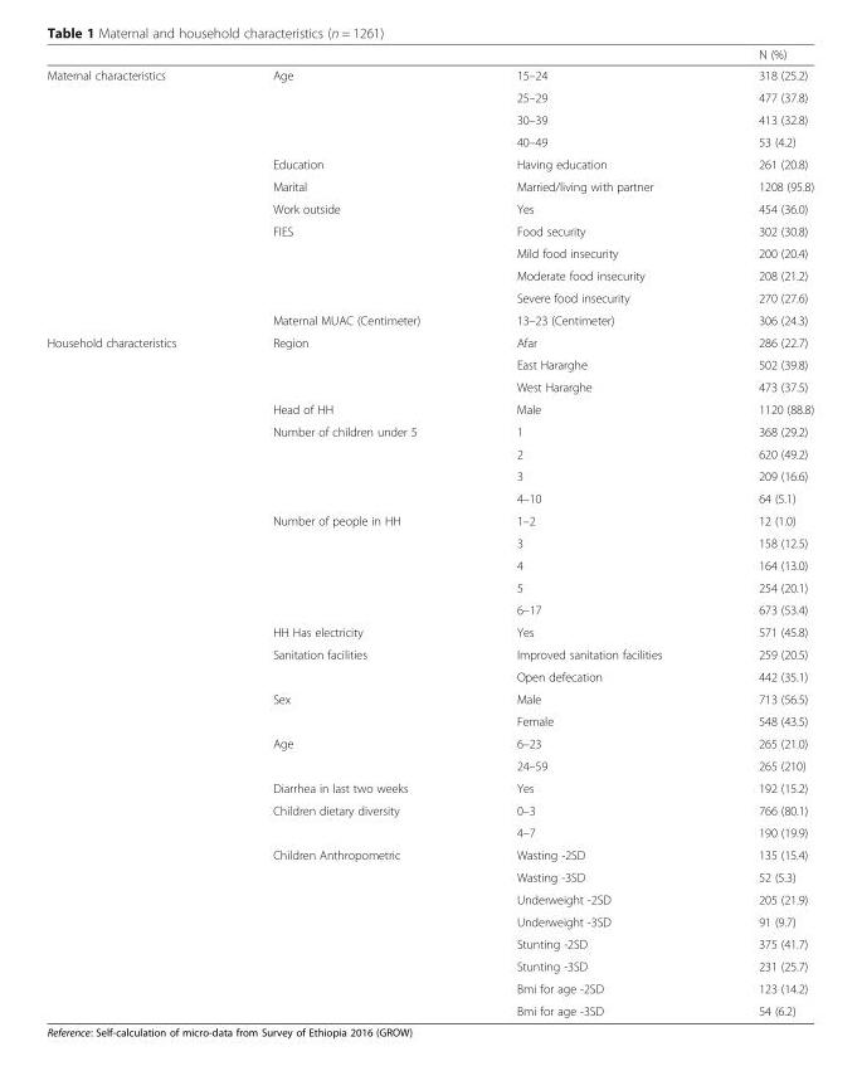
<table><thead><tr><td></td><td></td><td></td><td>N (%)</td></tr></thead><tbody><tr><td rowspan="12">Maternal characteristics</td><td>Age</td><td>15–24</td><td>318 (25.2)</td></tr><tr><td></td><td>25–29</td><td>477 (37.8)</td></tr><tr><td></td><td>30–39</td><td>413 (32.8)</td></tr><tr><td></td><td>40–49</td><td>53 (4.2)</td></tr><tr><td>Education</td><td>Having education</td><td>261 (20.8)</td></tr><tr><td>Marital</td><td>Married/living with partner</td><td>1208 (95.8)</td></tr><tr><td>Work outside</td><td>Yes</td><td>454 (36.0)</td></tr><tr><td>FIES</td><td>Food security</td><td>302 (30.8)</td></tr><tr><td></td><td>Mild food insecurity</td><td>200 (20.4)</td></tr><tr><td></td><td>Moderate food insecurity</td><td>208 (21.2)</td></tr><tr><td></td><td>Severe food insecurity</td><td>270 (27.6)</td></tr><tr><td>Maternal MUAC (Centimeter)</td><td>13–23 (Centimeter)</td><td>306 (24.3)</td></tr><tr><td rowspan="31">Household characteristics</td><td>Region</td><td>Afar</td><td>286 (22.7)</td></tr><tr><td></td><td>East Hararghe</td><td>502 (39.8)</td></tr><tr><td></td><td>West Hararghe</td><td>473 (37.5)</td></tr><tr><td>Head of HH</td><td>Male</td><td>1120 (88.8)</td></tr><tr><td>Number of children under 5</td><td>1</td><td>368 (29.2)</td></tr><tr><td></td><td>2</td><td>620 (49.2)</td></tr><tr><td></td><td>3</td><td>209 (16.6)</td></tr><tr><td></td><td>4–10</td><td>64 (5.1)</td></tr><tr><td>Number of people in HH</td><td>1–2</td><td>12 (1.0)</td></tr><tr><td></td><td>3</td><td>158 (12.5)</td></tr><tr><td></td><td>4</td><td>164 (13.0)</td></tr><tr><td></td><td>5</td><td>254 (20.1)</td></tr><tr><td></td><td>6–17</td><td>673 (53.4)</td></tr><tr><td>HH Has electricity</td><td>Yes</td><td>571 (45.8)</td></tr><tr><td>Sanitation facilities</td><td>Improved sanitation facilities</td><td>259 (20.5)</td></tr><tr><td></td><td>Open defecation</td><td>442 (35.1)</td></tr><tr><td>Sex</td><td>Male</td><td>713 (56.5)</td></tr><tr><td></td><td>Female</td><td>548 (43.5)</td></tr><tr><td>Age</td><td>6–23</td><td>265 (21.0)</td></tr><tr><td></td><td>24–59</td><td>265 (210)</td></tr><tr><td>Diarrhea in last two weeks</td><td>Yes</td><td>192 (15.2)</td></tr><tr><td>Children dietary diversity</td><td>0–3</td><td>766 (80.1)</td></tr><tr><td></td><td>4–7</td><td>190 (19.9)</td></tr><tr><td>Children Anthropometric</td><td>Wasting -2SD</td><td>135 (15.4)</td></tr><tr><td></td><td>Wasting -3SD</td><td>52 (5.3)</td></tr><tr><td></td><td>Underweight -2SD</td><td>205 (21.9)</td></tr><tr><td></td><td>Underweight -3SD</td><td>91 (9.7)</td></tr><tr><td></td><td>Stunting -2SD</td><td>375 (41.7)</td></tr><tr><td></td><td>Stunting -3SD</td><td>231 (25.7)</td></tr><tr><td></td><td>Bmi for age -2SD</td><td>123 (14.2)</td></tr><tr><td></td><td>Bmi for age -3SD</td><td>54 (6.2)</td></tr></tbody></table>